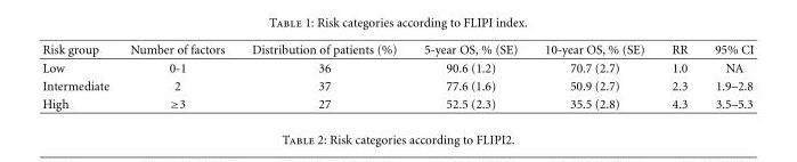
<table><thead><tr><td>Risk group</td><td>Number of factors</td><td>Distribution of patients (%)</td><td>5-year OS, % (SE)</td><td>10-year OS, % (SE)</td><td>RR</td><td>95% CI</td></tr></thead><tbody><tr><td>Low</td><td>0-1</td><td>36</td><td>90.6 (1.2)</td><td>70.7 (2.7)</td><td>1.0</td><td>NA</td></tr><tr><td>Intermediate</td><td>2</td><td>37</td><td>77.6 (1.6)</td><td>50.9 (2.7)</td><td>2.3</td><td>1.9–2.8</td></tr><tr><td>High</td><td>≥3</td><td>27</td><td>52.5 (2.3)</td><td>35.5 (2.8)</td><td>4.3</td><td>3.5–5.3</td></tr></tbody></table>